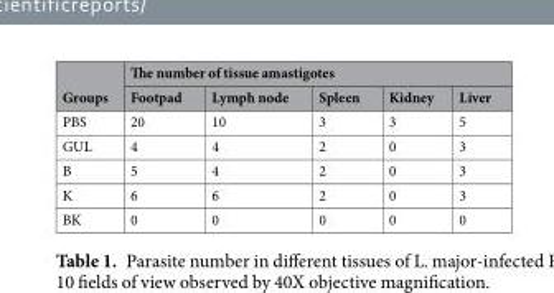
<table><thead><tr><td rowspan="2">Groups</td><td colspan="5">The number of tissue amastigotes</td></tr><tr><td>Footpad</td><td>Lymph node</td><td>Spleen</td><td>Kidney</td><td>Liver</td></tr></thead><tbody><tr><td>PBS</td><td>20</td><td>10</td><td>3</td><td>3</td><td>5</td></tr><tr><td>GUL</td><td>4</td><td>4</td><td>2</td><td>0</td><td>3</td></tr><tr><td>B</td><td>5</td><td>4</td><td>2</td><td>0</td><td>3</td></tr><tr><td>K</td><td>6</td><td>6</td><td>2</td><td>0</td><td>3</td></tr><tr><td>BK</td><td>0</td><td>0</td><td>0</td><td>0</td><td>0</td></tr></tbody></table>